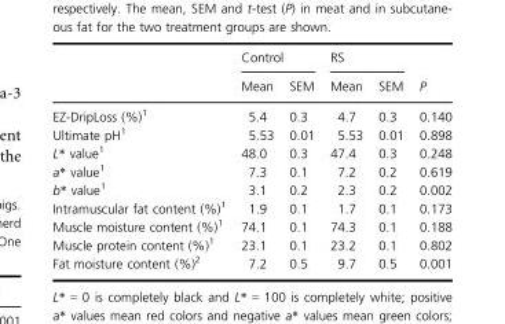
<table><thead><tr><td rowspan="2"></td><td colspan="2">Control</td><td colspan="2">RS</td><td rowspan="2">P</td></tr><tr><td>Mean</td><td>SEM</td><td>Mean</td><td>SEM</td></tr></thead><tbody><tr><td>EZ-DripLoss (%)<sup>1</sup></td><td>5.4</td><td>0.3</td><td>4.7</td><td>0.3</td><td>0.140</td></tr><tr><td>Ultimate pH<sup>1</sup></td><td>5.53</td><td>0.01</td><td>5.53</td><td>0.01</td><td>0.898</td></tr><tr><td>L* value<sup>1</sup></td><td>48.0</td><td>0.3</td><td>47.4</td><td>0.3</td><td>0.248</td></tr><tr><td>a* value<sup>1</sup></td><td>7.3</td><td>0.1</td><td>7.2</td><td>0.2</td><td>0.619</td></tr><tr><td>b* value<sup>1</sup></td><td>3.1</td><td>0.2</td><td>2.3</td><td>0.2</td><td>0.002</td></tr><tr><td>Intramuscular fat content (%)<sup>1</sup></td><td>1.9</td><td>0.1</td><td>1.7</td><td>0.1</td><td>0.173</td></tr><tr><td>Muscle moisture content (%)<sup>1</sup></td><td>74.1</td><td>0.1</td><td>74.3</td><td>0.1</td><td>0.188</td></tr><tr><td>Muscle protein content (%)<sup>1</sup></td><td>23.1</td><td>0.1</td><td>23.2</td><td>0.1</td><td>0.802</td></tr><tr><td>Fat moisture content (%)<sup>2</sup></td><td>7.2</td><td>0.5</td><td>9.7</td><td>0.5</td><td>0.001</td></tr></tbody></table>